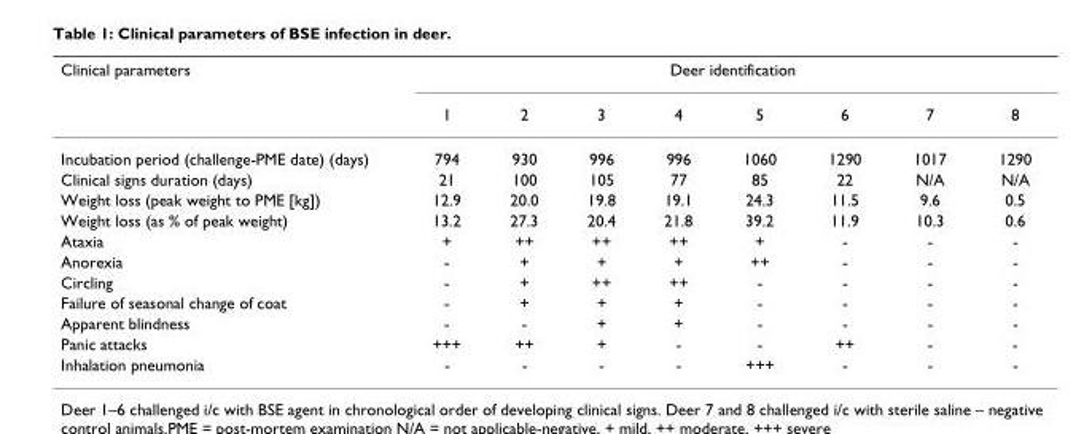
<table><thead><tr><td rowspan="2">Clinical parameters</td><td colspan="8">Deer identification</td></tr><tr><td>1</td><td>2</td><td>3</td><td>4</td><td>5</td><td>6</td><td>7</td><td>8</td></tr></thead><tbody><tr><td>Incubation period (challenge-PME date) (days)</td><td>794</td><td>930</td><td>996</td><td>996</td><td>1060</td><td>1290</td><td>1017</td><td>1290</td></tr><tr><td>Clinical signs duration (days)</td><td>21</td><td>100</td><td>105</td><td>77</td><td>85</td><td>22</td><td>N/A</td><td>N/A</td></tr><tr><td>Weight loss (peak weight to PME [kg])</td><td>12.9</td><td>20.0</td><td>19.8</td><td>19.1</td><td>24.3</td><td>11.5</td><td>9.6</td><td>0.5</td></tr><tr><td>Weight loss (as % of peak weight)</td><td>13.2</td><td>27.3</td><td>20.4</td><td>21.8</td><td>39.2</td><td>11.9</td><td>10.3</td><td>0.6</td></tr><tr><td>Ataxia</td><td>+</td><td>++</td><td>++</td><td>++</td><td>+</td><td>-</td><td>-</td><td>-</td></tr><tr><td>Anorexia</td><td>-</td><td>+</td><td>+</td><td>+</td><td>++</td><td>-</td><td>-</td><td>-</td></tr><tr><td>Circling</td><td>-</td><td>+</td><td>++</td><td>++</td><td>-</td><td>-</td><td>-</td><td>-</td></tr><tr><td>Failure of seasonal change of coat</td><td>-</td><td>+</td><td>+</td><td>+</td><td>-</td><td>-</td><td>-</td><td>-</td></tr><tr><td>Apparent blindness</td><td>-</td><td>-</td><td>+</td><td>+</td><td>-</td><td>-</td><td>-</td><td>-</td></tr><tr><td>Panic attacks</td><td>+++</td><td>++</td><td>+</td><td>-</td><td>-</td><td>++</td><td>-</td><td>-</td></tr><tr><td>Inhalation pneumonia</td><td>-</td><td>-</td><td>-</td><td>-</td><td>+++</td><td>-</td><td>-</td><td>-</td></tr></tbody></table>